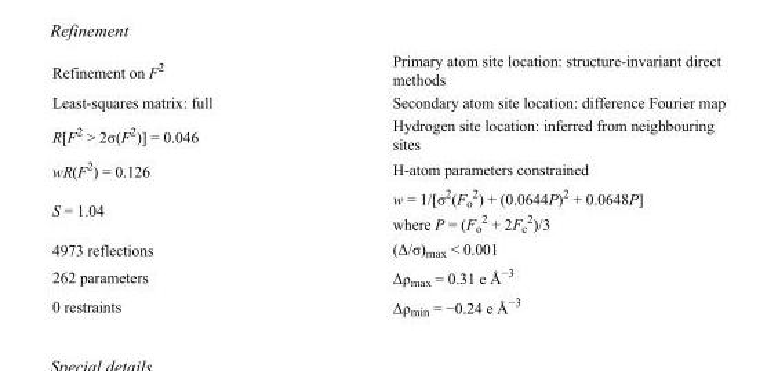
<table><tbody><tr><td>Refinement on F<sup>2</sup></td><td>Primary atom site location: structure-invariant direct methods</td></tr><tr><td>Least-squares matrix: full</td><td>Secondary atom site location: difference Fourier map</td></tr><tr><td>R[F<sup>2</sup> &gt; 2σ(F<sup>2</sup>)] = 0.046</td><td>Hydrogen site location: inferred from neighbouring sites</td></tr><tr><td>wR(F<sup>2</sup>) = 0.126</td><td>H-atom parameters constrained</td></tr><tr><td>S = 1.04</td><td>w = 1/[σ<sup>2</sup>(F<sub>o</sub> <sup>2</sup>) + (0.0644P)<sup>2</sup> + 0.0648P] where P = (F<sub>o</sub> <sup>2</sup> + 2F<sub>c</sub> <sup>2</sup>)/3</td></tr><tr><td>4973 reflections</td><td>(Δ/σ)<sub>max</sub> &lt; 0.001</td></tr><tr><td>262 parameters</td><td>Δρ<sub>max</sub> = 0.31 e Å<sup>−3</sup></td></tr><tr><td>0 restraints</td><td>Δρ<sub>min</sub> = −0.24 e Å<sup>−3</sup></td></tr></tbody></table>